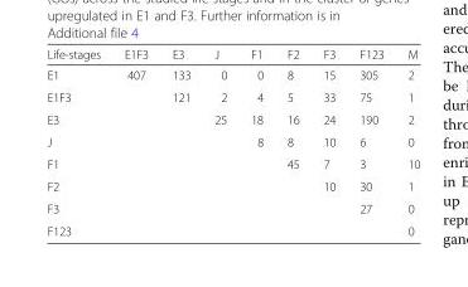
<table><thead><tr><td>Life-stages</td><td>E1F3</td><td>E3</td><td>J</td><td>F1</td><td>F2</td><td>F3</td><td>F123</td><td>M</td></tr></thead><tbody><tr><td>E1</td><td>407</td><td>133</td><td>0</td><td>0</td><td>8</td><td>15</td><td>305</td><td>2</td></tr><tr><td>E1F3</td><td></td><td>121</td><td>2</td><td>4</td><td>5</td><td>33</td><td>75</td><td>1</td></tr><tr><td>E3</td><td></td><td></td><td>25</td><td>18</td><td>16</td><td>24</td><td>190</td><td>2</td></tr><tr><td>J</td><td></td><td></td><td></td><td>8</td><td>8</td><td>10</td><td>6</td><td>0</td></tr><tr><td>F1</td><td></td><td></td><td></td><td></td><td>45</td><td>7</td><td>3</td><td>10</td></tr><tr><td>F2</td><td></td><td></td><td></td><td></td><td></td><td>10</td><td>30</td><td>1</td></tr><tr><td>F3</td><td></td><td></td><td></td><td></td><td></td><td></td><td>27</td><td>0</td></tr><tr><td>F123</td><td></td><td></td><td></td><td></td><td></td><td></td><td></td><td>0</td></tr></tbody></table>